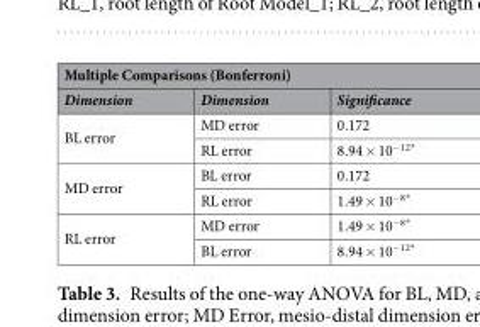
<table><thead><tr><td colspan="3">Multiple Comparisons (Bonferroni)</td></tr><tr><td>Dimension</td><td>Dimension</td><td>Significance</td></tr></thead><tbody><tr><td rowspan="2">BL error</td><td>MD error</td><td>0.172</td></tr><tr><td>RL error</td><td>8.94 × 10<sup>−12*</sup></td></tr><tr><td rowspan="2">MD error</td><td>BL error</td><td>0.172</td></tr><tr><td>RL error</td><td>1.49 × 10<sup>−8*</sup></td></tr><tr><td rowspan="2">RL error</td><td>MD error</td><td>1.49 × 10<sup>−8*</sup></td></tr><tr><td>BL error</td><td>8.94 × 10<sup>−12*</sup></td></tr></tbody></table>